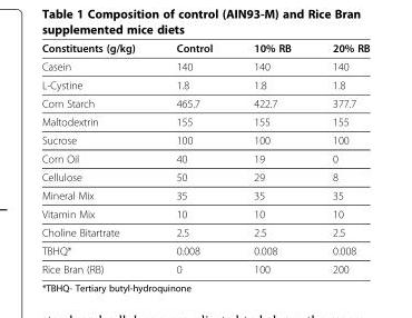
<table><thead><tr><td>Constituents (g/kg)</td><td>Control</td><td>10% RB</td><td>20% RB</td></tr></thead><tbody><tr><td>Casein</td><td>140</td><td>140</td><td>140</td></tr><tr><td>L-Cystine</td><td>1.8</td><td>1.8</td><td>1.8</td></tr><tr><td>Corn Starch</td><td>465.7</td><td>422.7</td><td>377.7</td></tr><tr><td>Maltodextrin</td><td>155</td><td>155</td><td>155</td></tr><tr><td>Sucrose</td><td>100</td><td>100</td><td>100</td></tr><tr><td>Corn Oil</td><td>40</td><td>19</td><td>0</td></tr><tr><td>Cellulose</td><td>50</td><td>29</td><td>8</td></tr><tr><td>Mineral Mix</td><td>35</td><td>35</td><td>35</td></tr><tr><td>Vitamin Mix</td><td>10</td><td>10</td><td>10</td></tr><tr><td>Choline Bitartrate</td><td>2.5</td><td>2.5</td><td>2.5</td></tr><tr><td>TBHQ*</td><td>0.008</td><td>0.008</td><td>0.008</td></tr><tr><td>Rice Bran (RB)</td><td>0</td><td>100</td><td>200</td></tr></tbody></table>